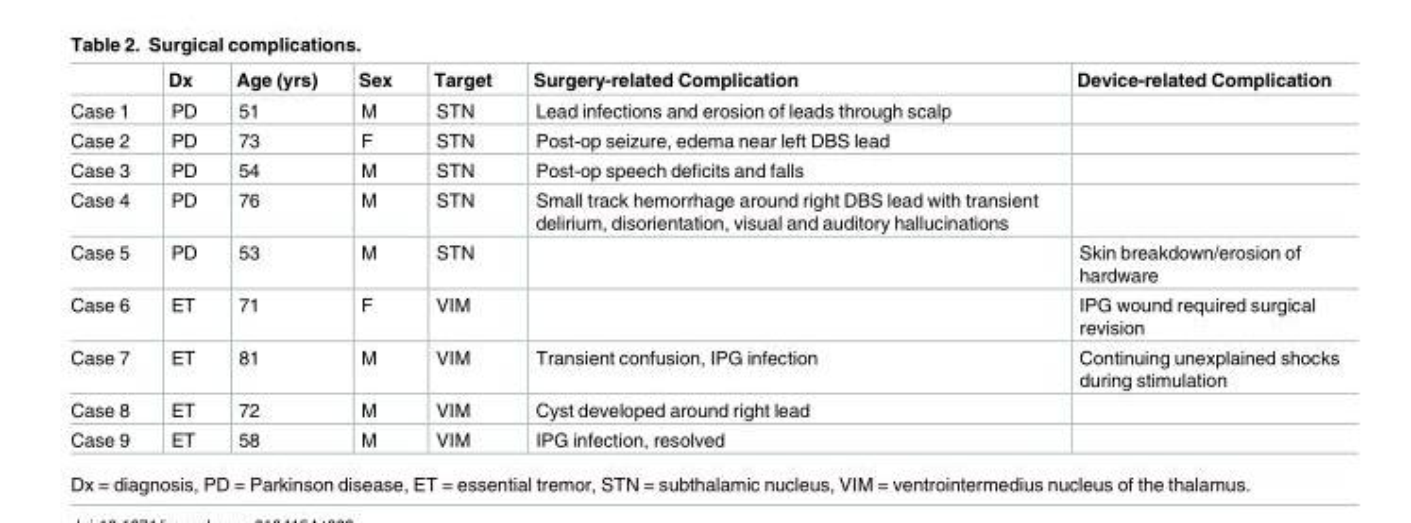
<table><thead><tr><td></td><td>Dx</td><td>Age (yrs)</td><td>Sex</td><td>Target</td><td>Surgery-related Complication</td><td>Device-related Complication</td></tr></thead><tbody><tr><td>Case 1</td><td>PD</td><td>51</td><td>M</td><td>STN</td><td>Lead infections and erosion of leads through scalp</td><td></td></tr><tr><td>Case 2</td><td>PD</td><td>73</td><td>F</td><td>STN</td><td>Post-op seizure, edema near left DBS lead</td><td></td></tr><tr><td>Case 3</td><td>PD</td><td>54</td><td>M</td><td>STN</td><td>Post-op speech deficits and falls</td><td></td></tr><tr><td>Case 4</td><td>PD</td><td>76</td><td>M</td><td>STN</td><td>Small track hemorrhage around right DBS lead with transient delirium, disorientation, visual and auditory hallucinations</td><td></td></tr><tr><td>Case 5</td><td>PD</td><td>53</td><td>M</td><td>STN</td><td></td><td>Skin breakdown/erosion of hardware</td></tr><tr><td>Case 6</td><td>ET</td><td>71</td><td>F</td><td>VIM</td><td></td><td>IPG wound required surgical revision</td></tr><tr><td>Case 7</td><td>ET</td><td>81</td><td>M</td><td>VIM</td><td>Transient confusion, IPG infection</td><td>Continuing unexplained shocks during stimulation</td></tr><tr><td>Case 8</td><td>ET</td><td>72</td><td>M</td><td>VIM</td><td>Cyst developed around right lead</td><td></td></tr><tr><td>Case 9</td><td>ET</td><td>58</td><td>M</td><td>VIM</td><td>IPG infection, resolved</td><td></td></tr></tbody></table>